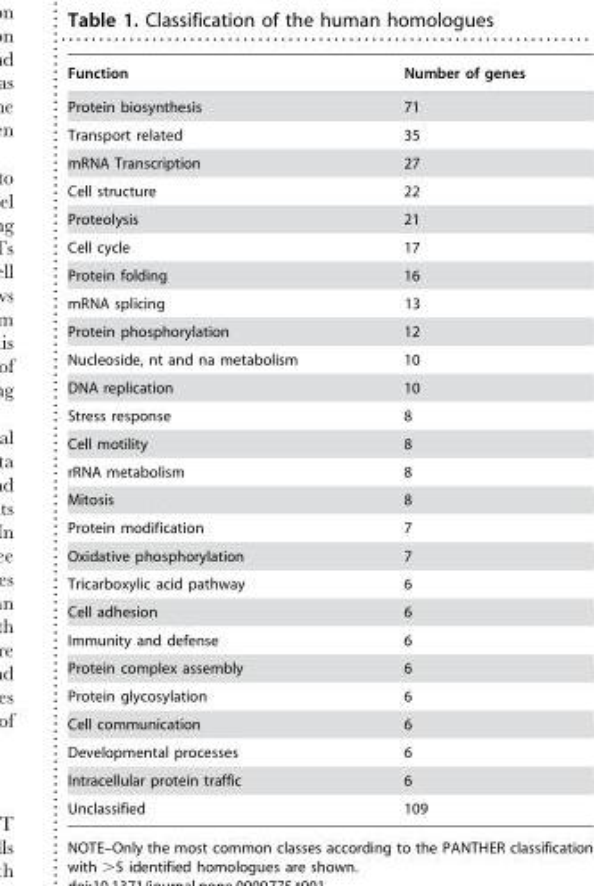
<table><thead><tr><td>Function</td><td>Number of genes</td></tr></thead><tbody><tr><td>Protein biosynthesis</td><td>71</td></tr><tr><td>Transport related</td><td>35</td></tr><tr><td>mRNA Transcription</td><td>27</td></tr><tr><td>Cell structure</td><td>22</td></tr><tr><td>Proteolysis</td><td>21</td></tr><tr><td>Cell cycle</td><td>17</td></tr><tr><td>Protein folding</td><td>16</td></tr><tr><td>mRNA splicing</td><td>13</td></tr><tr><td>Protein phosphorylation</td><td>12</td></tr><tr><td>Nucleoside, nt and na metabolism</td><td>10</td></tr><tr><td>DNA replication</td><td>10</td></tr><tr><td>Stress response</td><td>8</td></tr><tr><td>Cell motility</td><td>8</td></tr><tr><td>rRNA metabolism</td><td>8</td></tr><tr><td>Mitosis</td><td>8</td></tr><tr><td>Protein modification</td><td>7</td></tr><tr><td>Oxidative phosphorylation</td><td>7</td></tr><tr><td>Tricarboxylic acid pathway</td><td>6</td></tr><tr><td>Cell adhesion</td><td>6</td></tr><tr><td>Immunity and defense</td><td>6</td></tr><tr><td>Protein complex assembly</td><td>6</td></tr><tr><td>Protein glycosylation</td><td>6</td></tr><tr><td>Cell communication</td><td>6</td></tr><tr><td>Developmental processes</td><td>6</td></tr><tr><td>Intracellular protein traffic</td><td>6</td></tr><tr><td>Unclassified</td><td>109</td></tr></tbody></table>